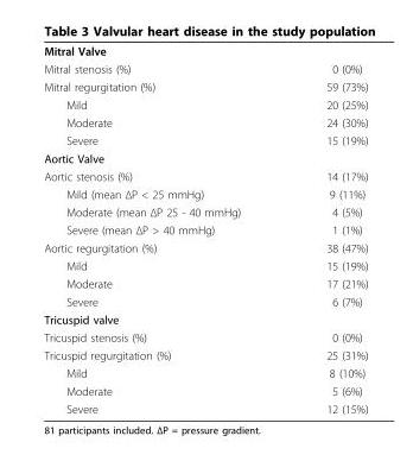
<table><thead><tr><td>Mitral Valve</td><td></td></tr></thead><tbody><tr><td>Mitral stenosis (%)</td><td>0 (0%)</td></tr><tr><td>Mitral regurgitation (%)</td><td>59 (73%)</td></tr><tr><td>Mild</td><td>20 (25%)</td></tr><tr><td>Moderate</td><td>24 (30%)</td></tr><tr><td>Severe</td><td>15 (19%)</td></tr><tr><td colspan="2">Aortic Valve</td></tr><tr><td>Aortic stenosis (%)</td><td>14 (17%)</td></tr><tr><td>Mild (mean ΔP &lt; 25 mmHg)</td><td>9 (11%)</td></tr><tr><td>Moderate (mean ΔP 25 - 40 mmHg)</td><td>4 (5%)</td></tr><tr><td>Severe (mean ΔP &gt; 40 mmHg)</td><td>1 (1%)</td></tr><tr><td>Aortic regurgitation (%)</td><td>38 (47%)</td></tr><tr><td>Mild</td><td>15 (19%)</td></tr><tr><td>Moderate</td><td>17 (21%)</td></tr><tr><td>Severe</td><td>6 (7%)</td></tr><tr><td colspan="2">Tricuspid valve</td></tr><tr><td>Tricuspid stenosis (%)</td><td>0 (0%)</td></tr><tr><td>Tricuspid regurgitation (%)</td><td>25 (31%)</td></tr><tr><td>Mild</td><td>8 (10%)</td></tr><tr><td>Moderate</td><td>5 (6%)</td></tr><tr><td>Severe</td><td>12 (15%)</td></tr></tbody></table>